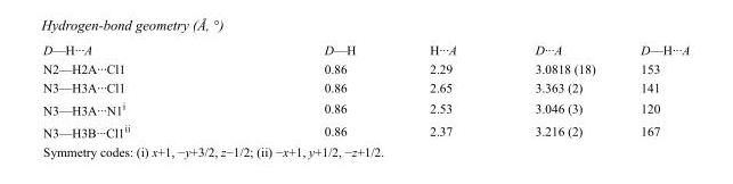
<table><tbody><tr><td>D—H···A</td><td>D—H</td><td>H···A</td><td>D···A</td><td>D—H···A</td></tr><tr><td>N2—H2A···Cl1</td><td>0.86</td><td>2.29</td><td>3.0818 (18)</td><td>153</td></tr><tr><td>N3—H3A···Cl1</td><td>0.86</td><td>2.65</td><td>3.363 (2)</td><td>141</td></tr><tr><td>N3—H3A···N1<sup>i</sup></td><td>0.86</td><td>2.53</td><td>3.046 (3)</td><td>120</td></tr><tr><td>N3—H3B···Cl1<sup>ii</sup></td><td>0.86</td><td>2.37</td><td>3.216 (2)</td><td>167</td></tr></tbody></table>